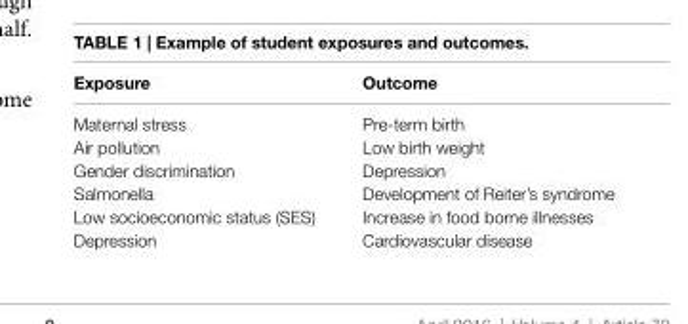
<table><thead><tr><td>exposure</td><td>Outcome</td></tr></thead><tbody><tr><td>Maternal stress</td><td>Pre-term birth</td></tr><tr><td>Air pollution</td><td>Low birth weight</td></tr><tr><td>Gender discrimination</td><td>Depression</td></tr><tr><td>Salmonella</td><td>Development of Reiter’s syndrome</td></tr><tr><td>Low socioeconomic status (SES)</td><td>Increase in food borne illnesses</td></tr><tr><td>Depression</td><td>Cardiovascular disease</td></tr></tbody></table>